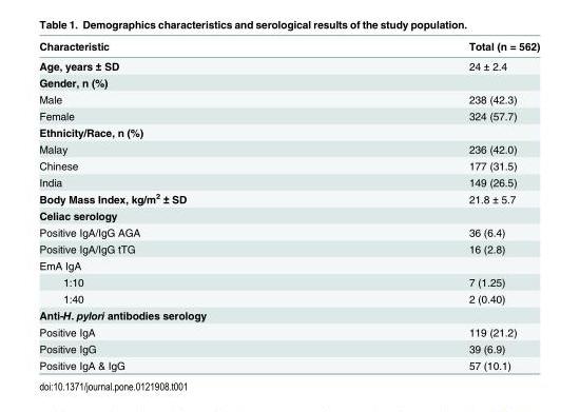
<table><thead><tr><td>Characteristic</td><td>Total (n = 562)</td></tr></thead><tbody><tr><td>Age, years ± SD</td><td>24 ± 2.4</td></tr><tr><td colspan="2">Gender, n (%)</td></tr><tr><td>Male</td><td>238 (42.3)</td></tr><tr><td>Female</td><td>324 (57.7)</td></tr><tr><td colspan="2">Ethnicity/Race, n (%)</td></tr><tr><td>Malay</td><td>236 (42.0)</td></tr><tr><td>Chinese</td><td>177 (31.5)</td></tr><tr><td>India</td><td>149 (26.5)</td></tr><tr><td>Body Mass Index, kg/m<sup>2</sup> ± SD</td><td>21.8 ± 5.7</td></tr><tr><td colspan="2">Celiac serology</td></tr><tr><td>Positive IgA/IgG AGA</td><td>36 (6.4)</td></tr><tr><td>Positive IgA/IgG tTG</td><td>16 (2.8)</td></tr><tr><td colspan="2">EmA IgA</td></tr><tr><td>1:10</td><td>7 (1.25)</td></tr><tr><td>1:40</td><td>2 (0.40)</td></tr><tr><td colspan="2">Anti-H. pylori antibodies serology</td></tr><tr><td>Positive IgA</td><td>119 (21.2)</td></tr><tr><td>Positive IgG</td><td>39 (6.9)</td></tr><tr><td>Positive IgA &amp; IgG</td><td>57 (10.1)</td></tr></tbody></table>